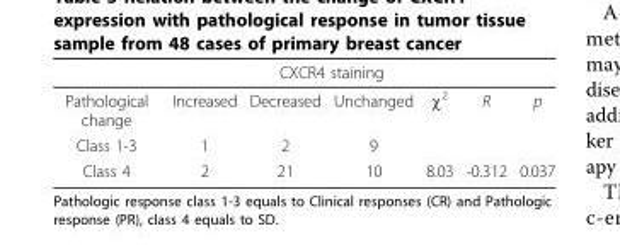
<table><thead><tr><td rowspan="2">Pathological change</td><td rowspan="2">Increased</td><td colspan="2">CXCR4 staining</td><td rowspan="2">χ<sup>2</sup></td><td rowspan="2">R</td><td rowspan="2">p</td></tr><tr><td>Decreased</td><td>Unchanged</td></tr></thead><tbody><tr><td>Class 1-3</td><td>1</td><td>2</td><td>9</td><td></td><td></td><td></td></tr><tr><td>Class 4</td><td>2</td><td>21</td><td>10</td><td>8.03</td><td>-0.312</td><td>0.037</td></tr></tbody></table>